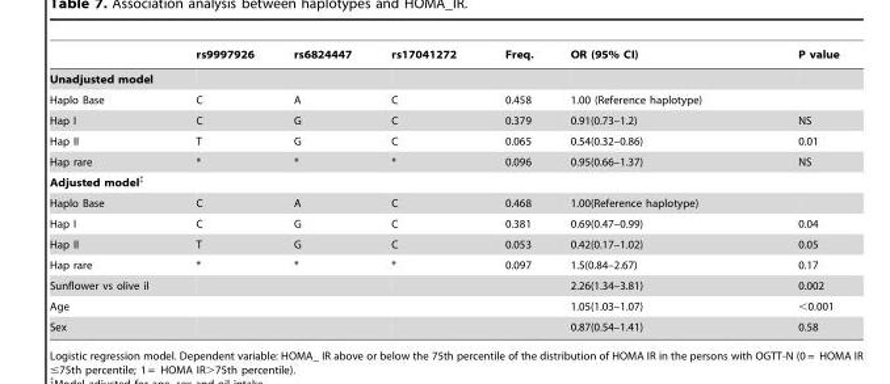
<table><thead><tr><td></td><td>rs9997926</td><td>rs6824447</td><td>rs17041272</td><td>Freq.</td><td>OR (95% CI)</td><td>P value</td></tr></thead><tbody><tr><td colspan="7">Unadjusted model</td></tr><tr><td>Haplo Base</td><td>C</td><td>A</td><td>C</td><td>0.458</td><td>1.00 (Reference haplotype)</td><td></td></tr><tr><td>Hap I</td><td>C</td><td>G</td><td>C</td><td>0.379</td><td>0.91(0.73–1.2)</td><td>NS</td></tr><tr><td>Hap II</td><td>T</td><td>G</td><td>C</td><td>0.065</td><td>0.54(0.32–0.86)</td><td>0.01</td></tr><tr><td>Hap rare</td><td>*</td><td>*</td><td>*</td><td>0.096</td><td>0.95(0.66–1.37)</td><td>NS</td></tr><tr><td colspan="7">Adjusted model‡</td></tr><tr><td>Haplo Base</td><td>C</td><td>A</td><td>C</td><td>0.468</td><td>1.00(Reference haplotype)</td><td></td></tr><tr><td>Hap I</td><td>C</td><td>G</td><td>C</td><td>0.381</td><td>0.69(0.47–0.99)</td><td>0.04</td></tr><tr><td>Hap II</td><td>T</td><td>G</td><td>C</td><td>0.053</td><td>0.42(0.17–1.02)</td><td>0.05</td></tr><tr><td>Hap rare</td><td>*</td><td>*</td><td>*</td><td>0.097</td><td>1.5(0.84–2.67)</td><td>0.17</td></tr><tr><td>Sunflower vs olive il</td><td></td><td></td><td></td><td></td><td>2.26(1.34–3.81)</td><td>0.002</td></tr><tr><td>Age</td><td></td><td></td><td></td><td></td><td>1.05(1.03–1.07)</td><td>&lt;0.001</td></tr><tr><td>Sex</td><td></td><td></td><td></td><td></td><td>0.87(0.54–1.41)</td><td>0.58</td></tr></tbody></table>